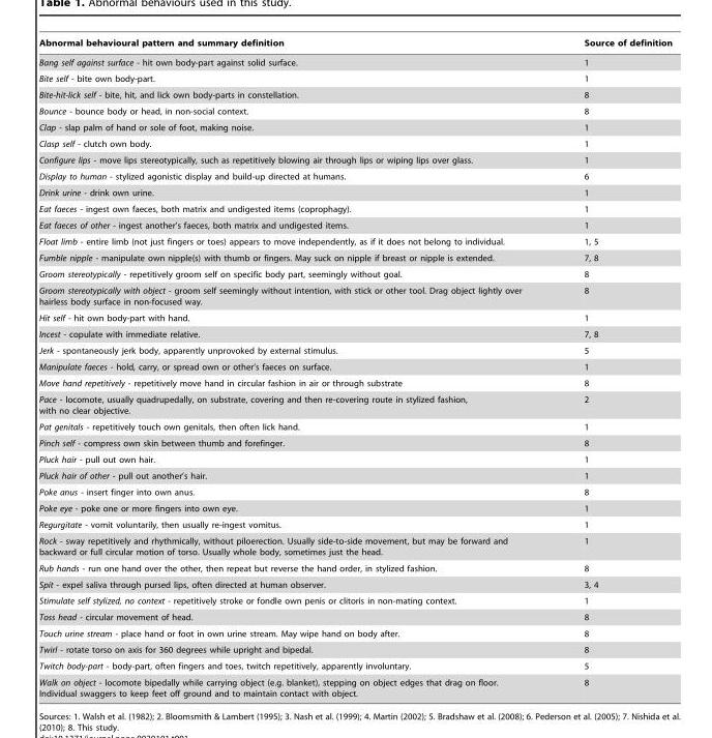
<table><thead><tr><td>Abnormal behavioural pattern and summary definition</td><td>Source of definition</td></tr></thead><tbody><tr><td>Bang self against surface - hit own body-part against solid surface.</td><td>1</td></tr><tr><td>Bite self - bite own body-part.</td><td>1</td></tr><tr><td>Bite-hit-lick self - bite, hit, and lick own body-parts in constellation.</td><td>8</td></tr><tr><td>Bounce - bounce body or head, in non-social context.</td><td>8</td></tr><tr><td>Clap - slap palm of hand or sole of foot, making noise.</td><td>1</td></tr><tr><td>Clasp self - clutch own body.</td><td>1</td></tr><tr><td>Configure lips - move lips stereotypically, such as repetitively blowing air through lips or wiping lips over glass.</td><td>1</td></tr><tr><td>Display to human - stylized agonistic display and build-up directed at humans.</td><td>6</td></tr><tr><td>Drink urine - drink own urine.</td><td>1</td></tr><tr><td>Eat faeces - ingest own faeces, both matrix and undigested items (coprophagy).</td><td>1</td></tr><tr><td>Eat faeces of other - ingest another’s faeces, both matrix and undigested items.</td><td>1</td></tr><tr><td>Float limb - entire limb (not just fingers or toes) appears to move independently, as if it does not belong to individual.</td><td>1, 5</td></tr><tr><td>Fumble nipple - manipulate own nipple(s) with thumb or fingers. May suck on nipple if breast or nipple is extended.</td><td>7, 8</td></tr><tr><td>Groom stereotypically - repetitively groom self on specific body part, seemingly without goal.</td><td>8</td></tr><tr><td>Groom stereotypically with object - groom self seemingly without intention, with stick or other tool. Drag object lightly over hairless body surface in non-focused way.</td><td>8</td></tr><tr><td>Hit self - hit own body-part with hand.</td><td>1</td></tr><tr><td>Incest - copulate with immediate relative.</td><td>7, 8</td></tr><tr><td>Jerk - spontaneously jerk body, apparently unprovoked by external stimulus.</td><td>5</td></tr><tr><td>Manipulate faeces - hold, carry, or spread own or other’s faeces on surface.</td><td>1</td></tr><tr><td>Move hand repetitively - repetitively move hand in circular fashion in air or through substrate</td><td>8</td></tr><tr><td>Pace - locomote, usually quadrupedally, on substrate, covering and then re-covering route in stylized fashion, with no clear objective.</td><td>2</td></tr><tr><td>Pat genitals - repetitively touch own genitals, then often lick hand.</td><td>1</td></tr><tr><td>Pinch self - compress own skin between thumb and forefinger.</td><td>8</td></tr><tr><td>Pluck hair - pull out own hair.</td><td>1</td></tr><tr><td>Pluck hair of other - pull out another’s hair.</td><td>1</td></tr><tr><td>Poke anus - insert finger into own anus.</td><td>8</td></tr><tr><td>Poke eye - poke one or more fingers into own eye.</td><td>1</td></tr><tr><td>Regurgitate - vomit voluntarily, then usually re-ingest vomitus.</td><td>1</td></tr><tr><td>Rock - sway repetitively and rhythmically, without piloerection. Usually side-to-side movement, but may be forward and backward or full circular motion of torso. Usually whole body, sometimes just the head.</td><td>1</td></tr><tr><td>Rub hands - run one hand over the other, then repeat but reverse the hand order, in stylized fashion.</td><td>8</td></tr><tr><td>Spit - expel saliva through pursed lips, often directed at human observer.</td><td>3, 4</td></tr><tr><td>Stimulate self stylized, no context - repetitively stroke or fondle own penis or clitoris in non-mating context.</td><td>1</td></tr><tr><td>Toss head - circular movement of head.</td><td>8</td></tr><tr><td>Touch urine stream - place hand or foot in own urine stream. May wipe hand on body after.</td><td>8</td></tr><tr><td>Twirl - rotate torso on axis for 360 degrees while upright and bipedal.</td><td>8</td></tr><tr><td>Twitch body-part - body-part, often fingers and toes, twitch repetitively, apparently involuntary.</td><td>5</td></tr><tr><td>Walk on object - locomote bipedally while carrying object (e.g. blanket), stepping on object edges that drag on floor. Individual swaggers to keep feet off ground and to maintain contact with object.</td><td>8</td></tr></tbody></table>